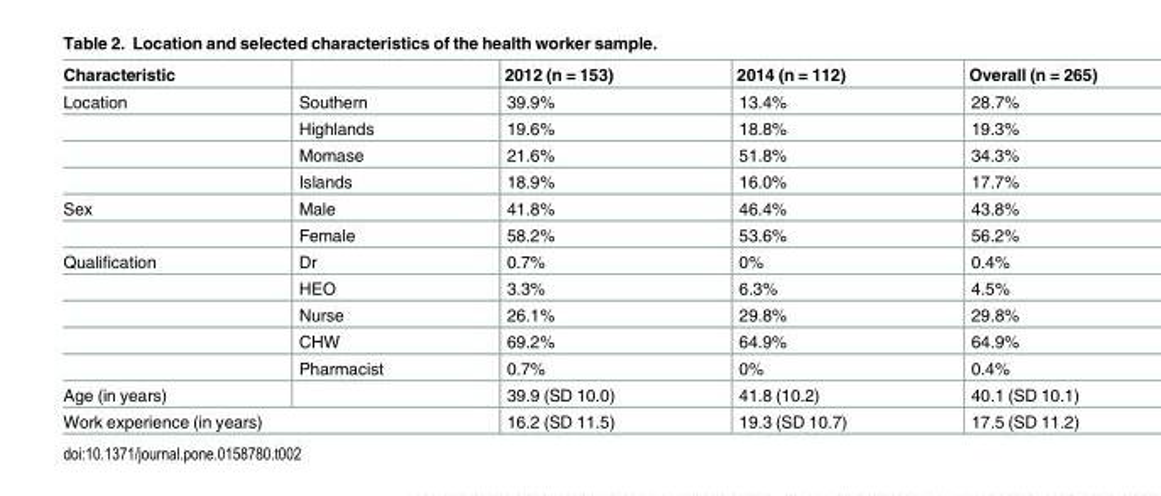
<table><thead><tr><td>Characteristic</td><td></td><td>2012 (n = 153)</td><td>2014 (n = 112)</td><td>Overall (n = 265)</td></tr></thead><tbody><tr><td rowspan="4">Location</td><td>Southern</td><td>39.9%</td><td>13.4%</td><td>28.7%</td></tr><tr><td>Highlands</td><td>19.6%</td><td>18.8%</td><td>19.3%</td></tr><tr><td>Momase</td><td>21.6%</td><td>51.8%</td><td>34.3%</td></tr><tr><td>Islands</td><td>18.9%</td><td>16.0%</td><td>17.7%</td></tr><tr><td rowspan="2">Sex</td><td>Male</td><td>41.8%</td><td>46.4%</td><td>43.8%</td></tr><tr><td>Female</td><td>58.2%</td><td>53.6%</td><td>56.2%</td></tr><tr><td rowspan="5">Qualification</td><td>Dr</td><td>0.7%</td><td>0%</td><td>0.4%</td></tr><tr><td>HEO</td><td>3.3%</td><td>6.3%</td><td>4.5%</td></tr><tr><td>Nurse</td><td>26.1%</td><td>29.8%</td><td>29.8%</td></tr><tr><td>CHW</td><td>69.2%</td><td>64.9%</td><td>64.9%</td></tr><tr><td>Pharmacist</td><td>0.7%</td><td>0%</td><td>0.4%</td></tr><tr><td>Age (in years)</td><td></td><td>39.9 (SD 10.0)</td><td>41.8 (10.2)</td><td>40.1 (SD 10.1)</td></tr><tr><td colspan="2">Work experience (in years)</td><td>16.2 (SD 11.5)</td><td>19.3 (SD 10.7)</td><td>17.5 (SD 11.2)</td></tr></tbody></table>